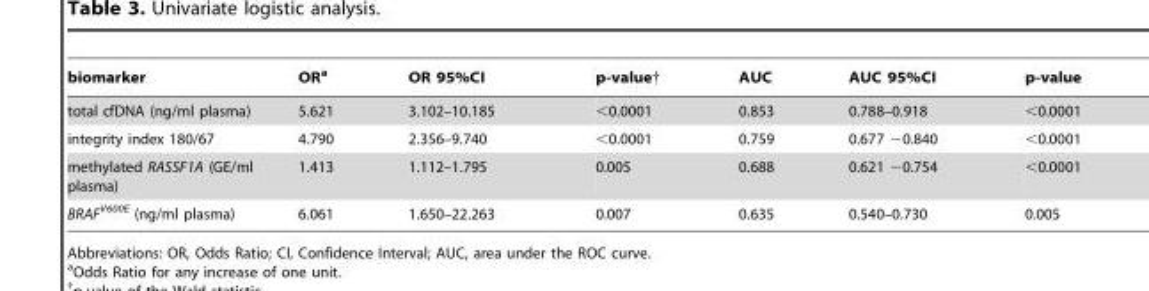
<table><thead><tr><td>biomarker</td><td>OR<sup>a</sup></td><td>OR 95%CI</td><td>p-value†</td><td>AUC</td><td>AUC 95%CI</td><td>p-value</td></tr></thead><tbody><tr><td>total cfDNA (ng/ml plasma)</td><td>5.621</td><td>3.102–10.185</td><td>&lt;0.0001</td><td>0.853</td><td>0.788–0.918</td><td>&lt;0.0001</td></tr><tr><td>integrity index 180/67</td><td>4.790</td><td>2.356–9.740</td><td>&lt;0.0001</td><td>0.759</td><td>0.677 −0.840</td><td>&lt;0.0001</td></tr><tr><td>methylated RASSF1A (GE/ml plasma)</td><td>1.413</td><td>1.112–1.795</td><td>0.005</td><td>0.688</td><td>0.621 −0.754</td><td>&lt;0.0001</td></tr><tr><td>BRAF<sup>V600E</sup> (ng/ml plasma)</td><td>6.061</td><td>1.650–22.263</td><td>0.007</td><td>0.635</td><td>0.540–0.730</td><td>0.005</td></tr></tbody></table>